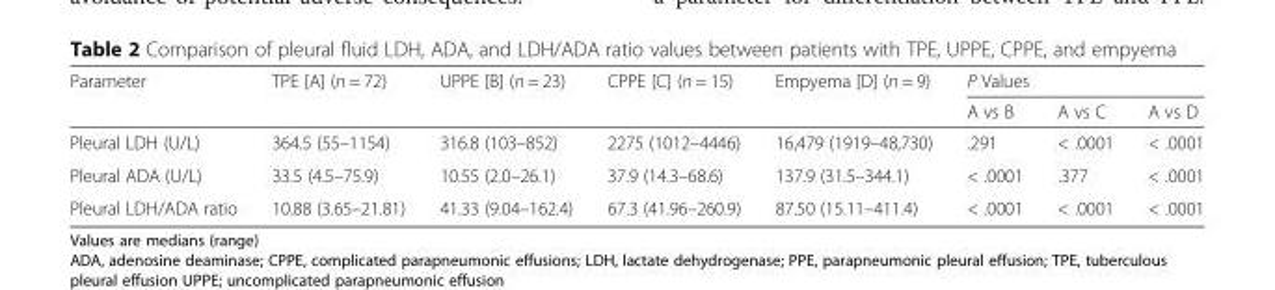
<table><thead><tr><td rowspan="2">Parameter</td><td rowspan="2">TPE [A] (n = 72)</td><td rowspan="2">UPPE [B] (n = 23)</td><td rowspan="2">CPPE [C] (n = 15)</td><td rowspan="2">Empyema [D] (n = 9)</td><td colspan="3">P Values</td></tr><tr><td>A vs B</td><td>A vs C</td><td>A vs D</td></tr></thead><tbody><tr><td>Pleural LDH (U/L)</td><td>364.5 (55–1154)</td><td>316.8 (103–852)</td><td>2275 (1012–4446)</td><td>16,479 (1919–48,730)</td><td>.291</td><td>&lt; .0001</td><td>&lt; .0001</td></tr><tr><td>Pleural ADA (U/L)</td><td>33.5 (4.5–75.9)</td><td>10.55 (2.0–26.1)</td><td>37.9 (14.3–68.6)</td><td>137.9 (31.5–344.1)</td><td>&lt; .0001</td><td>.377</td><td>&lt; .0001</td></tr><tr><td>Pleural LDH/ADA ratio</td><td>10.88 (3.65–21.81)</td><td>41.33 (9.04–162.4)</td><td>67.3 (41.96–260.9)</td><td>87.50 (15.11–411.4)</td><td>&lt; .0001</td><td>&lt; .0001</td><td>&lt; .0001</td></tr></tbody></table>